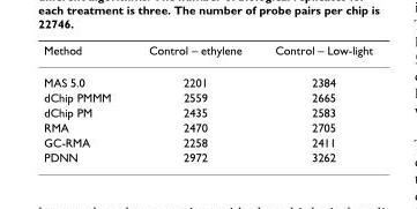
<table><thead><tr><td>Method</td><td>Control – ethylene</td><td>Control – Low-light</td></tr></thead><tbody><tr><td>MAS 5.0</td><td>2201</td><td>2384</td></tr><tr><td>dChip PMMM</td><td>2559</td><td>2665</td></tr><tr><td>dChip PM</td><td>2435</td><td>2583</td></tr><tr><td>RMA</td><td>2470</td><td>2705</td></tr><tr><td>GC-RMA</td><td>2258</td><td>2411</td></tr><tr><td>PDNN</td><td>2972</td><td>3262</td></tr></tbody></table>